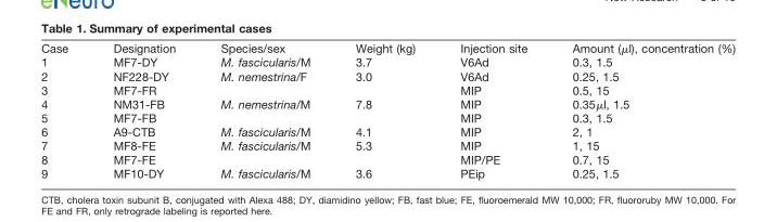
<table><thead><tr><td>Case</td><td>Designation</td><td>Species/sex</td><td>Weight (kg)</td><td>Injection site</td><td>Amount (µl), concentration (%)</td></tr></thead><tbody><tr><td>1</td><td>MF7-DY</td><td>M. fascicularis/M</td><td>3.7</td><td>V6Ad</td><td>0.3, 1.5</td></tr><tr><td>2</td><td>NF228-DY</td><td>M. nemestrina/F</td><td>3.0</td><td>V6Ad</td><td>0.25, 1.5</td></tr><tr><td>3</td><td>MF7-FR</td><td></td><td></td><td>MIP</td><td>0.5, 15</td></tr><tr><td>4</td><td>NM31-FB</td><td>M. nemestrina/M</td><td>7.8</td><td>MIP</td><td>0.35μl, 1.5</td></tr><tr><td>5</td><td>MF7-FB</td><td></td><td></td><td>MIP</td><td>0.3, 1.5</td></tr><tr><td>6</td><td>A9-CTB</td><td>M. fascicularis/M</td><td>4.1</td><td>MIP</td><td>2, 1</td></tr><tr><td>7</td><td>MF8-FE</td><td>M. fascicularis/M</td><td>5.3</td><td>MIP</td><td>1, 15</td></tr><tr><td>8</td><td>MF7-FE</td><td></td><td></td><td>MIP/PE</td><td>0.7, 15</td></tr><tr><td>9</td><td>MF10-DY</td><td>M. fascicularis/M</td><td>3.6</td><td>PEip</td><td>0.25, 1.5</td></tr></tbody></table>